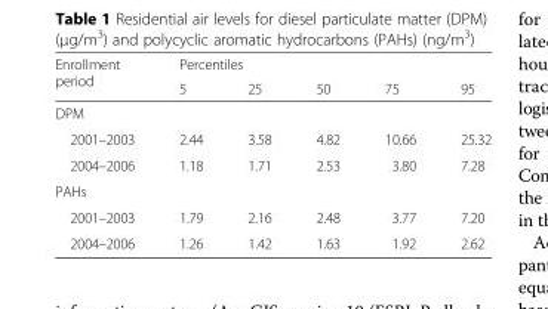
<table><thead><tr><td rowspan="2">Enrollment period</td><td colspan="5">Percentiles</td></tr><tr><td>5</td><td>25</td><td>50</td><td>75</td><td>95</td></tr></thead><tbody><tr><td colspan="6">DPM</td></tr><tr><td>2001–2003</td><td>2.44</td><td>3.58</td><td>4.82</td><td>10.66</td><td>25.32</td></tr><tr><td>2004–2006</td><td>1.18</td><td>1.71</td><td>2.53</td><td>3.80</td><td>7.28</td></tr><tr><td colspan="6">PAHs</td></tr><tr><td>2001–2003</td><td>1.79</td><td>2.16</td><td>2.48</td><td>3.77</td><td>7.20</td></tr><tr><td>2004–2006</td><td>1.26</td><td>1.42</td><td>1.63</td><td>1.92</td><td>2.62</td></tr></tbody></table>